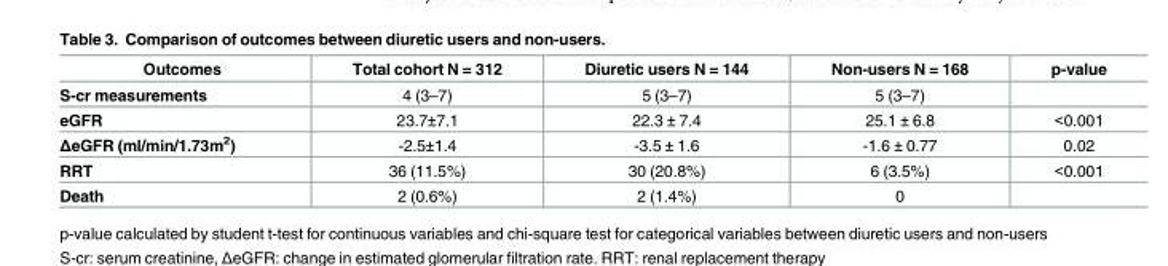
<table><thead><tr><td>Outcomes</td><td>Total cohort N = 312</td><td>Diuretic users N = 144</td><td>Non-users N = 168</td><td>p-value</td></tr></thead><tbody><tr><td>S-cr measurements</td><td>4 (3–7)</td><td>5 (3–7)</td><td>5 (3–7)</td><td></td></tr><tr><td>eGFR</td><td>23.7±7.1</td><td>22.3 ± 7.4</td><td>25.1 ± 6.8</td><td>&lt;0.001</td></tr><tr><td>ΔeGFR (ml/min/1.73m<sup>2</sup>)</td><td>-2.5±1.4</td><td>-3.5 ± 1.6</td><td>-1.6 ± 0.77</td><td>0.02</td></tr><tr><td>RRT</td><td>36 (11.5%)</td><td>30 (20.8%)</td><td>6 (3.5%)</td><td>&lt;0.001</td></tr><tr><td>Death</td><td>2 (0.6%)</td><td>2 (1.4%)</td><td>0</td><td></td></tr></tbody></table>